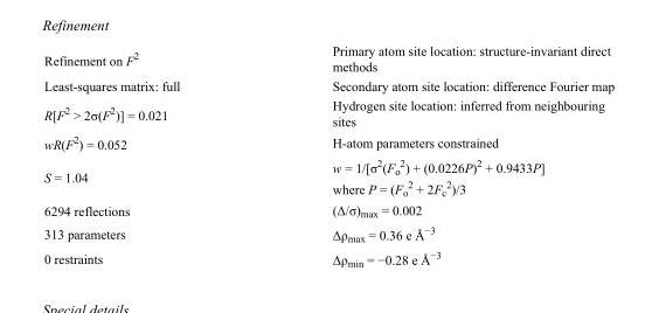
<table><tbody><tr><td>Refinement on F<sup>2</sup></td><td>Primary atom site location: structure-invariant direct methods</td></tr><tr><td>Least-squares matrix: full</td><td>Secondary atom site location: difference Fourier map</td></tr><tr><td>R[F<sup>2</sup> &gt; 2σ(F<sup>2</sup>)] = 0.021</td><td>Hydrogen site location: inferred from neighbouring sites</td></tr><tr><td>wR(F<sup>2</sup>) = 0.052</td><td>H-atom parameters constrained</td></tr><tr><td>S = 1.04</td><td>w = 1/[σ<sup>2</sup>(F<sub>o</sub> <sup>2</sup>) + (0.0226P)<sup>2</sup> + 0.9433P] where P = (F<sub>o</sub> <sup>2</sup> + 2F<sub>c</sub> <sup>2</sup>)/3</td></tr><tr><td>6294 reflections</td><td>(Δ/σ)<sub>max</sub> = 0.002</td></tr><tr><td>313 parameters</td><td>Δρ<sub>max</sub> = 0.36 e Å<sup>−3</sup></td></tr><tr><td>0 restraints</td><td>Δρ<sub>min</sub> = −0.28 e Å<sup>−3</sup></td></tr></tbody></table>